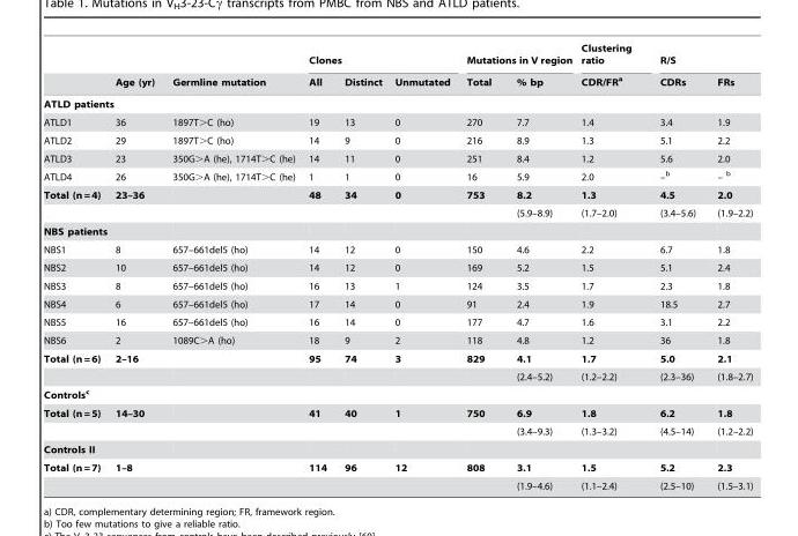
<table><thead><tr><td rowspan="2"></td><td rowspan="2">Age (yr)</td><td rowspan="2">Germline mutation</td><td colspan="3">Clones</td><td colspan="2">Mutations in V region</td><td rowspan="2">Clustering ratio CDR/FR<sup>a</sup></td><td colspan="2">R/S</td></tr><tr><td>All</td><td>Distinct</td><td>Unmutated</td><td>Total</td><td>% bp</td><td>CDRs</td><td>FRs</td></tr></thead><tbody><tr><td colspan="11">ATLD patients</td></tr><tr><td>ATLD1</td><td>36</td><td>1897T&gt;C (ho)</td><td>19</td><td>13</td><td>0</td><td>270</td><td>7.7</td><td>1.4</td><td>3.4</td><td>1.9</td></tr><tr><td>ATLD2</td><td>29</td><td>1897T&gt;C (ho)</td><td>14</td><td>9</td><td>0</td><td>216</td><td>8.9</td><td>1.3</td><td>5.1</td><td>2.2</td></tr><tr><td>ATLD3</td><td>23</td><td>350G&gt;A (he), 1714T&gt;C (he)</td><td>14</td><td>11</td><td>0</td><td>251</td><td>8.4</td><td>1.2</td><td>5.6</td><td>2.0</td></tr><tr><td>ATLD4</td><td>26</td><td>350G&gt;A (he), 1714T&gt;C (he)</td><td>1</td><td>1</td><td>0</td><td>16</td><td>5.9</td><td>2.0</td><td>–<sup>b</sup></td><td>– <sup>b</sup></td></tr><tr><td rowspan="2">Total (n = 4)</td><td>23–36</td><td></td><td>48</td><td>34</td><td>0</td><td>753</td><td>8.2</td><td>1.3</td><td>4.5</td><td>2.0</td></tr><tr><td></td><td></td><td></td><td></td><td></td><td></td><td>(5.9–8.9)</td><td>(1.7–2.0)</td><td>(3.4–5.6)</td><td>(1.9–2.2)</td></tr><tr><td colspan="11">NBS patients</td></tr><tr><td>NBS1</td><td>8</td><td>657–661del5 (ho)</td><td>14</td><td>12</td><td>0</td><td>150</td><td>4.6</td><td>2.2</td><td>6.7</td><td>1.8</td></tr><tr><td>NBS2</td><td>10</td><td>657–661del5 (ho)</td><td>14</td><td>12</td><td>0</td><td>169</td><td>5.2</td><td>1.5</td><td>5.1</td><td>2.4</td></tr><tr><td>NBS3</td><td>8</td><td>657–661del5 (ho)</td><td>16</td><td>13</td><td>1</td><td>124</td><td>3.5</td><td>1.7</td><td>2.3</td><td>1.8</td></tr><tr><td>NBS4</td><td>6</td><td>657–661del5 (ho)</td><td>17</td><td>14</td><td>0</td><td>91</td><td>2.4</td><td>1.9</td><td>18.5</td><td>2.7</td></tr><tr><td>NBS5</td><td>16</td><td>657–661del5 (ho)</td><td>16</td><td>14</td><td>0</td><td>177</td><td>4.7</td><td>1.6</td><td>3.1</td><td>2.2</td></tr><tr><td>NBS6</td><td>2</td><td>1089C&gt;A (ho)</td><td>18</td><td>9</td><td>2</td><td>118</td><td>4.8</td><td>1.2</td><td>36</td><td>1.8</td></tr><tr><td rowspan="2">Total (n = 6)</td><td>2–16</td><td></td><td>95</td><td>74</td><td>3</td><td>829</td><td>4.1</td><td>1.7</td><td>5.0</td><td>2.1</td></tr><tr><td></td><td></td><td></td><td></td><td></td><td></td><td>(2.4–5.2)</td><td>(1.2–2.2)</td><td>(2.3–36)</td><td>(1.8–2.7)</td></tr><tr><td colspan="11">Controls<sup>c</sup></td></tr><tr><td rowspan="2">Total (n = 5)</td><td>14–30</td><td></td><td>41</td><td>40</td><td>1</td><td>750</td><td>6.9</td><td>1.8</td><td>6.2</td><td>1.8</td></tr><tr><td></td><td></td><td></td><td></td><td></td><td></td><td>(3.4–9.3)</td><td>(1.3–3.2)</td><td>(4.5–14)</td><td>(1.2–2.2)</td></tr><tr><td colspan="11">Controls II</td></tr><tr><td rowspan="2">Total (n = 7)</td><td>1–8</td><td></td><td>114</td><td>96</td><td>12</td><td>808</td><td>3.1</td><td>1.5</td><td>5.2</td><td>2.3</td></tr><tr><td></td><td></td><td></td><td></td><td></td><td></td><td>(1.9–4.6)</td><td>(1.1–2.4)</td><td>(2.5–10)</td><td>(1.5–3.1)</td></tr></tbody></table>